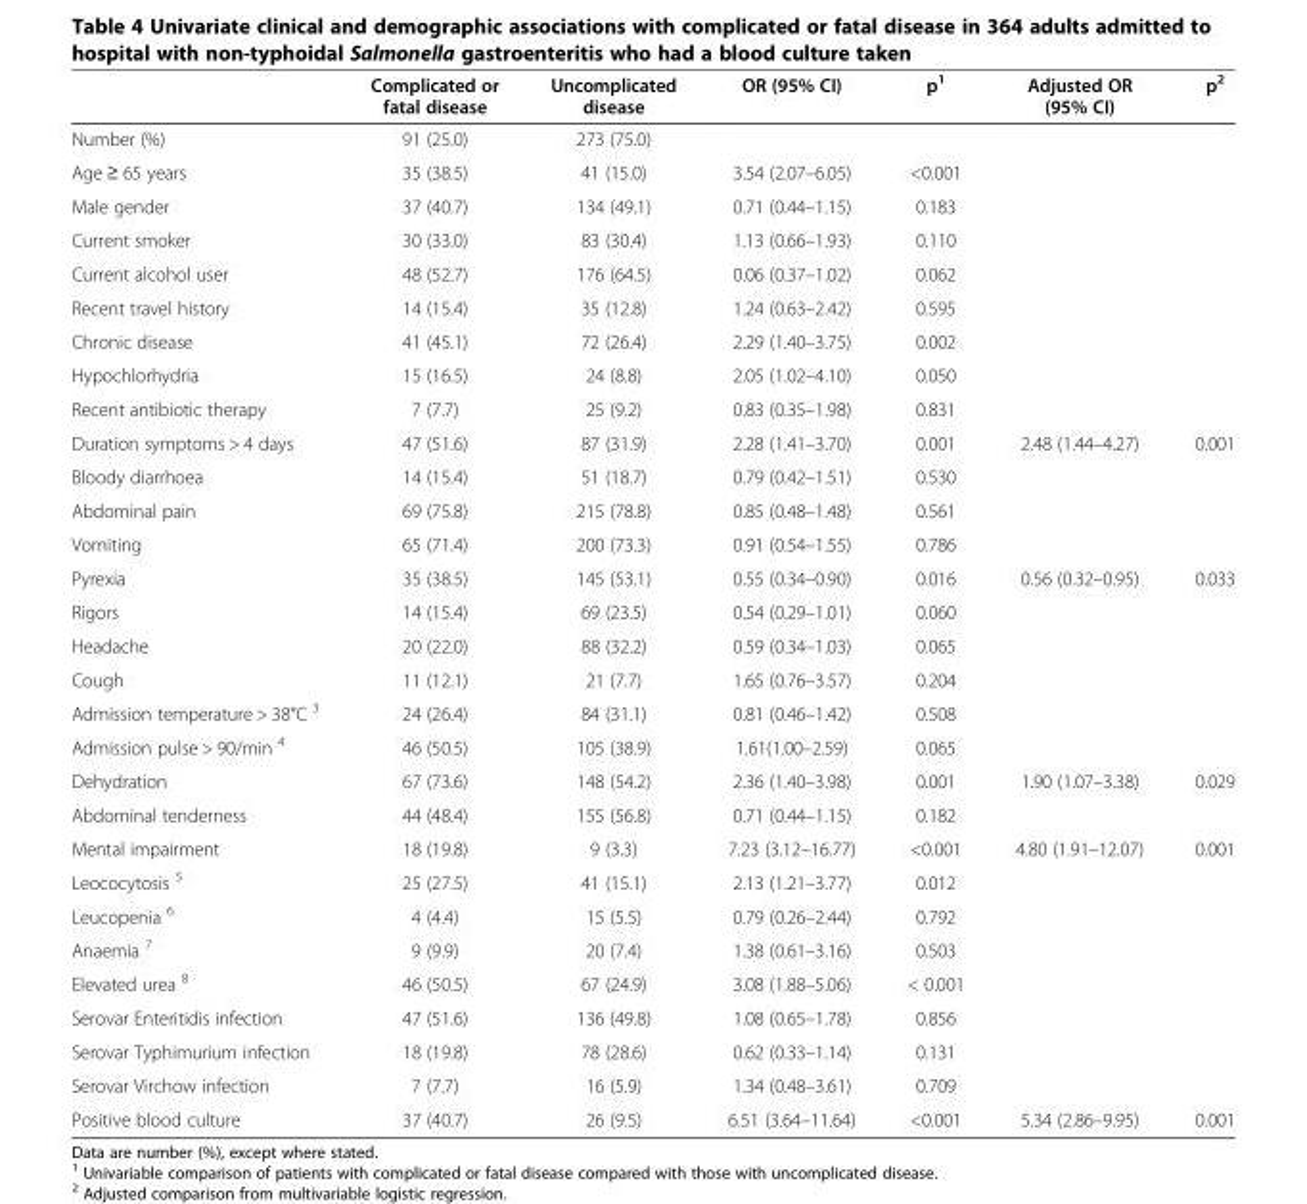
<table><thead><tr><td></td><td>Complicated or fatal disease</td><td>Uncomplicated disease</td><td>OR (95% CI)</td><td>p<sup>1</sup></td><td>Adjusted OR (95% CI)</td><td>p<sup>2</sup></td></tr></thead><tbody><tr><td>Number (%)</td><td>91 (25.0)</td><td>273 (75.0)</td><td></td><td></td><td></td><td></td></tr><tr><td>Age ≥ 65 years</td><td>35 (38.5)</td><td>41 (15.0)</td><td>3.54 (2.07–6.05)</td><td>&lt;0.001</td><td></td><td></td></tr><tr><td>Male gender</td><td>37 (40.7)</td><td>134 (49.1)</td><td>0.71 (0.44–1.15)</td><td>0.183</td><td></td><td></td></tr><tr><td>Current smoker</td><td>30 (33.0)</td><td>83 (30.4)</td><td>1.13 (0.66–1.93)</td><td>0.110</td><td></td><td></td></tr><tr><td>Current alcohol user</td><td>48 (52.7)</td><td>176 (64.5)</td><td>0.06 (0.37–1.02)</td><td>0.062</td><td></td><td></td></tr><tr><td>Recent travel history</td><td>14 (15.4)</td><td>35 (12.8)</td><td>1.24 (0.63–2.42)</td><td>0.595</td><td></td><td></td></tr><tr><td>Chronic disease</td><td>41 (45.1)</td><td>72 (26.4)</td><td>2.29 (1.40–3.75)</td><td>0.002</td><td></td><td></td></tr><tr><td>Hypochlorhydria</td><td>15 (16.5)</td><td>24 (8.8)</td><td>2.05 (1.02–4.10)</td><td>0.050</td><td></td><td></td></tr><tr><td>Recent antibiotic therapy</td><td>7 (7.7)</td><td>25 (9.2)</td><td>0.83 (0.35–1.98)</td><td>0.831</td><td></td><td></td></tr><tr><td>Duration symptoms &gt; 4 days</td><td>47 (51.6)</td><td>87 (31.9)</td><td>2.28 (1.41–3.70)</td><td>0.001</td><td>2.48 (1.44–4.27)</td><td>0.001</td></tr><tr><td>Bloody diarrhoea</td><td>14 (15.4)</td><td>51 (18.7)</td><td>0.79 (0.42–1.51)</td><td>0.530</td><td></td><td></td></tr><tr><td>Abdominal pain</td><td>69 (75.8)</td><td>215 (78.8)</td><td>0.85 (0.48–1.48)</td><td>0.561</td><td></td><td></td></tr><tr><td>Vomiting</td><td>65 (71.4)</td><td>200 (73.3)</td><td>0.91 (0.54–1.55)</td><td>0.786</td><td></td><td></td></tr><tr><td>Pyrexia</td><td>35 (38.5)</td><td>145 (53.1)</td><td>0.55 (0.34–0.90)</td><td>0.016</td><td>0.56 (0.32–0.95)</td><td>0.033</td></tr><tr><td>Rigors</td><td>14 (15.4)</td><td>69 (23.5)</td><td>0.54 (0.29–1.01)</td><td>0.060</td><td></td><td></td></tr><tr><td>Headache</td><td>20 (22.0)</td><td>88 (32.2)</td><td>0.59 (0.34–1.03)</td><td>0.065</td><td></td><td></td></tr><tr><td>Cough</td><td>11 (12.1)</td><td>21 (7.7)</td><td>1.65 (0.76–3.57)</td><td>0.204</td><td></td><td></td></tr><tr><td>Admission temperature &gt; 38°C <sup>3</sup></td><td>24 (26.4)</td><td>84 (31.1)</td><td>0.81 (0.46–1.42)</td><td>0.508</td><td></td><td></td></tr><tr><td>Admission pulse &gt; 90/min <sup>4</sup></td><td>46 (50.5)</td><td>105 (38.9)</td><td>1.61(1.00–2.59)</td><td>0.065</td><td></td><td></td></tr><tr><td>Dehydration</td><td>67 (73.6)</td><td>148 (54.2)</td><td>2.36 (1.40–3.98)</td><td>0.001</td><td>1.90 (1.07–3.38)</td><td>0.029</td></tr><tr><td>Abdominal tenderness</td><td>44 (48.4)</td><td>155 (56.8)</td><td>0.71 (0.44–1.15)</td><td>0.182</td><td></td><td></td></tr><tr><td>Mental impairment</td><td>18 (19.8)</td><td>9 (3.3)</td><td>7.23 (3.12–16.77)</td><td>&lt;0.001</td><td>4.80 (1.91–12.07)</td><td>0.001</td></tr><tr><td>Leococytosis <sup>5</sup></td><td>25 (27.5)</td><td>41 (15.1)</td><td>2.13 (1.21–3.77)</td><td>0.012</td><td></td><td></td></tr><tr><td>Leucopenia <sup>6</sup></td><td>4 (4.4)</td><td>15 (5.5)</td><td>0.79 (0.26–2.44)</td><td>0.792</td><td></td><td></td></tr><tr><td>Anaemia <sup>7</sup></td><td>9 (9.9)</td><td>20 (7.4)</td><td>1.38 (0.61–3.16)</td><td>0.503</td><td></td><td></td></tr><tr><td>Elevated urea <sup>8</sup></td><td>46 (50.5)</td><td>67 (24.9)</td><td>3.08 (1.88–5.06)</td><td>&lt; 0.001</td><td></td><td></td></tr><tr><td>Serovar Enteritidis infection</td><td>47 (51.6)</td><td>136 (49.8)</td><td>1.08 (0.65–1.78)</td><td>0.856</td><td></td><td></td></tr><tr><td>Serovar Typhimurium infection</td><td>18 (19.8)</td><td>78 (28.6)</td><td>0.62 (0.33–1.14)</td><td>0.131</td><td></td><td></td></tr><tr><td>Serovar Virchow infection</td><td>7 (7.7)</td><td>16 (5.9)</td><td>1.34 (0.48–3.61)</td><td>0.709</td><td></td><td></td></tr><tr><td>Positive blood culture</td><td>37 (40.7)</td><td>26 (9.5)</td><td>6.51 (3.64–11.64)</td><td>&lt;0.001</td><td>5.34 (2.86–9.95)</td><td>0.001</td></tr></tbody></table>